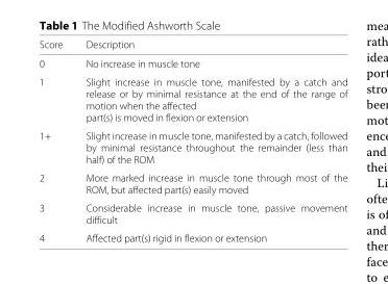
<table><thead><tr><td>Score</td><td>Description</td></tr></thead><tbody><tr><td>0</td><td>No increase in muscle tone</td></tr><tr><td rowspan="2">1</td><td>Slight increase in muscle tone, manifested by a catch and release or by minimal resistance at the end of the range of motion when the affected</td></tr><tr><td>part(s) is moved in flexion or extension</td></tr><tr><td>1+</td><td>Slight increase in muscle tone, manifested by a catch, followed by minimal resistance throughout the remainder (less than half) of the ROM</td></tr><tr><td>2</td><td>More marked increase in muscle tone through most of the ROM, but affected part(s) easily moved</td></tr><tr><td>3</td><td>Considerable increase in muscle tone, passive movement difficult</td></tr><tr><td>4</td><td>Affected part(s) rigid in flexion or extension</td></tr></tbody></table>